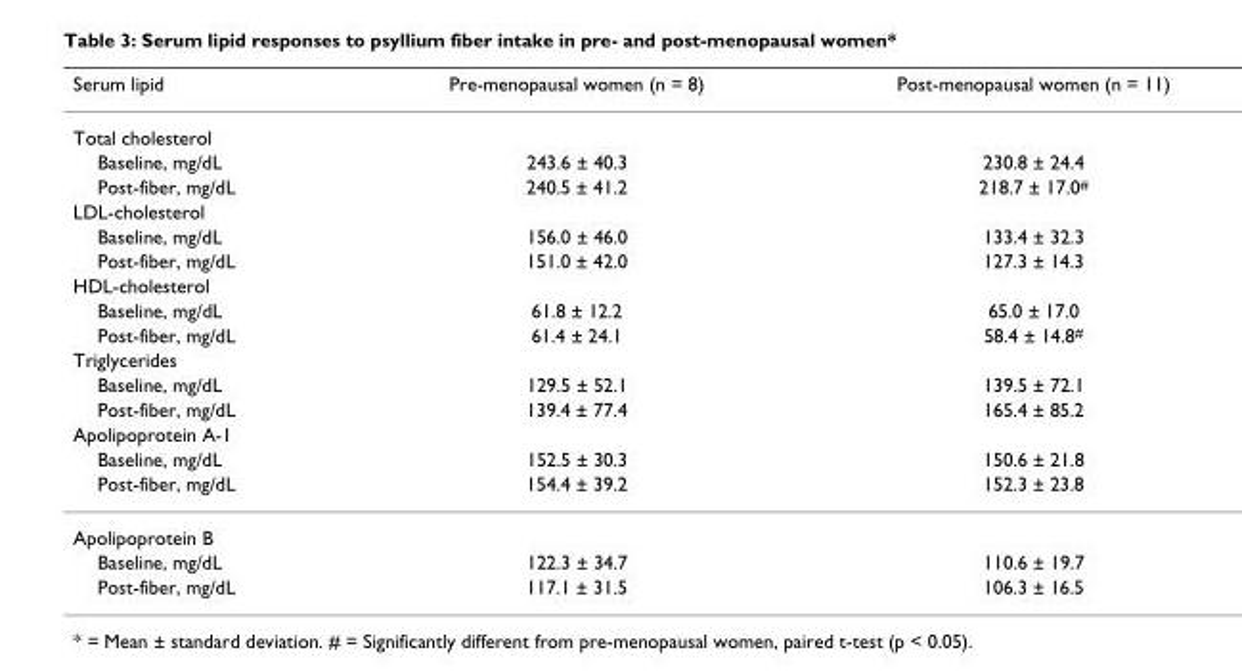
<table><thead><tr><td>Serum lipid</td><td>Pre-menopausal women (n = 8)</td><td>Post-menopausal women (n = 11)</td></tr></thead><tbody><tr><td colspan="3">Total cholesterol</td></tr><tr><td>Baseline, mg/dL</td><td>243.6 ± 40.3</td><td>230.8 ± 24.4</td></tr><tr><td>Post-fiber, mg/dL</td><td>240.5 ± 41.2</td><td>218.7 ± 17.0<sup>#</sup></td></tr><tr><td colspan="3">LDL-cholesterol</td></tr><tr><td>Baseline, mg/dL</td><td>156.0 ± 46.0</td><td>133.4 ± 32.3</td></tr><tr><td>Post-fiber, mg/dL</td><td>151.0 ± 42.0</td><td>127.3 ± 14.3</td></tr><tr><td colspan="3">HDL-cholesterol</td></tr><tr><td>Baseline, mg/dL</td><td>61.8 ± 12.2</td><td>65.0 ± 17.0</td></tr><tr><td>Post-fiber, mg/dL</td><td>61.4 ± 24.1</td><td>58.4 ± 14.8<sup>#</sup></td></tr><tr><td colspan="3">Triglycerides</td></tr><tr><td>Baseline, mg/dL</td><td>129.5 ± 52.1</td><td>139.5 ± 72.1</td></tr><tr><td>Post-fiber, mg/dL</td><td>139.4 ± 77.4</td><td>165.4 ± 85.2</td></tr><tr><td colspan="3">Apolipoprotein A-1</td></tr><tr><td>Baseline, mg/dL</td><td>152.5 ± 30.3</td><td>150.6 ± 21.8</td></tr><tr><td>Post-fiber, mg/dL</td><td>154.4 ± 39.2</td><td>152.3 ± 23.8</td></tr><tr><td colspan="3">Apolipoprotein B</td></tr><tr><td>Baseline, mg/dL</td><td>122.3 ± 34.7</td><td>110.6 ± 19.7</td></tr><tr><td>Post-fiber, mg/dL</td><td>117.1 ± 31.5</td><td>106.3 ± 16.5</td></tr></tbody></table>